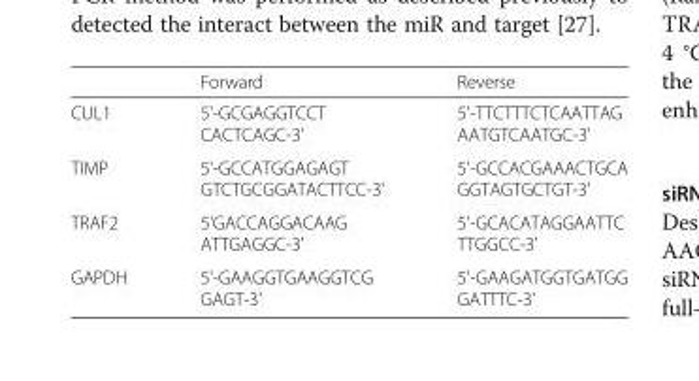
<table><thead><tr><td></td><td>Forward</td><td>Reverse</td></tr></thead><tbody><tr><td>CUL1</td><td>5&#x27;-GCGAGGTCCT CACTCAGC-3&#x27;</td><td>5&#x27;-TTCTTTCTCAATTAG AATGTCAATGC-3&#x27;</td></tr><tr><td>TIMP</td><td>5&#x27;-GCCATGGAGAGT GTCTGCGGATACTTCC-3&#x27;</td><td>5&#x27;-GCCACGAAACTGCA GGTAGTGCTGT-3&#x27;</td></tr><tr><td>TRAF2</td><td>5&#x27;GACCAGGACAAG ATTGAGGC-3&#x27;</td><td>5&#x27;-GCACATAGGAATTC TTGGCC-3&#x27;</td></tr><tr><td>GAPDH</td><td>5&#x27;-GAAGGTGAAGGTCG GAGT-3&#x27;</td><td>5&#x27;-GAAGATGGTGATGG GATTTC-3&#x27;</td></tr></tbody></table>